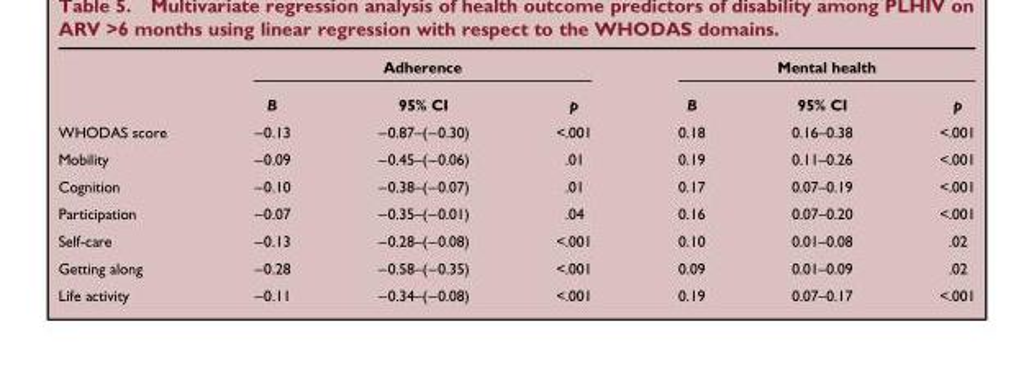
<table><thead><tr><td rowspan="2"></td><td colspan="3">Adherence</td><td colspan="3">Mental health</td></tr><tr><td>B</td><td>95% CI</td><td>p</td><td>B</td><td>95% CI</td><td>p</td></tr></thead><tbody><tr><td>WHODAS score</td><td>−0.13</td><td>−0.87–(−0.30)</td><td>&lt;.001</td><td>0.18</td><td>0.16–0.38</td><td>&lt;.001</td></tr><tr><td>Mobility</td><td>−0.09</td><td>−0.45–(−0.06)</td><td>.01</td><td>0.19</td><td>0.11–0.26</td><td>&lt;.001</td></tr><tr><td>Cognition</td><td>−0.10</td><td>−0.38–(−0.07)</td><td>.01</td><td>0.17</td><td>0.07–0.19</td><td>&lt;.001</td></tr><tr><td>Participation</td><td>−0.07</td><td>−0.35–(−0.01)</td><td>.04</td><td>0.16</td><td>0.07–0.20</td><td>&lt;.001</td></tr><tr><td>Self-care</td><td>−0.13</td><td>−0.28–(−0.08)</td><td>&lt;.001</td><td>0.10</td><td>0.01–0.08</td><td>.02</td></tr><tr><td>Getting along</td><td>−0.28</td><td>−0.58–(−0.35)</td><td>&lt;.001</td><td>0.09</td><td>0.01–0.09</td><td>.02</td></tr><tr><td>Life activity</td><td>−0.11</td><td>−0.34–(−0.08)</td><td>&lt;.001</td><td>0.19</td><td>0.07–0.17</td><td>&lt;.001</td></tr></tbody></table>